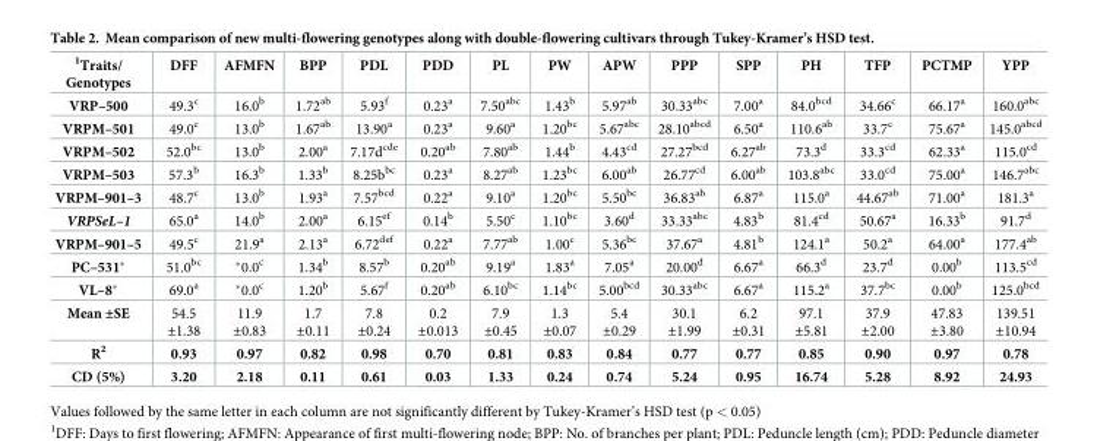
<table><thead><tr><td><sup>1</sup>Traits/ Genotypes</td><td>DFF</td><td>AFMFN</td><td>BPP</td><td>PDL</td><td>PDD</td><td>PL</td><td>PW</td><td>APW</td><td>PPP</td><td>SPP</td><td>PH</td><td>TFP</td><td>PCTMP</td><td>YPP</td></tr></thead><tbody><tr><td>VRP–500</td><td>49.3<sup>c</sup></td><td>16.0<sup>b</sup></td><td>1.72<sup>ab</sup></td><td>5.93<sup>f</sup></td><td>0.23<sup>a</sup></td><td>7.50<sup>abc</sup></td><td>1.43<sup>b</sup></td><td>5.97<sup>ab</sup></td><td>30.33<sup>abc</sup></td><td>7.00<sup>a</sup></td><td>84.0<sup>bcd</sup></td><td>34.66<sup>c</sup></td><td>66.17<sup>a</sup></td><td>160.0<sup>abc</sup></td></tr><tr><td>VRPM–501</td><td>49.0<sup>c</sup></td><td>13.0<sup>b</sup></td><td>1.67<sup>ab</sup></td><td>13.90<sup>a</sup></td><td>0.23<sup>a</sup></td><td>9.60<sup>a</sup></td><td>1.20<sup>bc</sup></td><td>5.67<sup>abc</sup></td><td>28.10<sup>abcd</sup></td><td>6.50<sup>a</sup></td><td>110.6<sup>ab</sup></td><td>33.7<sup>c</sup></td><td>75.67<sup>a</sup></td><td>145.0<sup>abcd</sup></td></tr><tr><td>VRPM–502</td><td>52.0<sup>bc</sup></td><td>13.0<sup>b</sup></td><td>2.00<sup>a</sup></td><td>7.17d<sup>cde</sup></td><td>0.20<sup>ab</sup></td><td>7.80<sup>ab</sup></td><td>1.44<sup>b</sup></td><td>4.43<sup>cd</sup></td><td>27.27<sup>bcd</sup></td><td>6.27<sup>ab</sup></td><td>73.3<sup>d</sup></td><td>33.3<sup>cd</sup></td><td>62.33<sup>a</sup></td><td>115.0<sup>cd</sup></td></tr><tr><td>VRPM–503</td><td>57.3<sup>b</sup></td><td>16.3<sup>b</sup></td><td>1.33<sup>b</sup></td><td>8.25b<sup>bc</sup></td><td>0.23<sup>a</sup></td><td>8.27<sup>ab</sup></td><td>1.23<sup>bc</sup></td><td>6.00<sup>ab</sup></td><td>26.77<sup>cd</sup></td><td>6.00<sup>ab</sup></td><td>103.8<sup>abc</sup></td><td>33.0<sup>cd</sup></td><td>75.00<sup>a</sup></td><td>146.7<sup>abc</sup></td></tr><tr><td>VRPM–901–3</td><td>48.7<sup>c</sup></td><td>13.0<sup>b</sup></td><td>1.93<sup>a</sup></td><td>7.57<sup>bcd</sup></td><td>0.22<sup>a</sup></td><td>9.10<sup>a</sup></td><td>1.20<sup>bc</sup></td><td>5.50<sup>bc</sup></td><td>36.83<sup>ab</sup></td><td>6.87<sup>a</sup></td><td>115.0<sup>a</sup></td><td>44.67<sup>ab</sup></td><td>71.00<sup>a</sup></td><td>181.3<sup>a</sup></td></tr><tr><td>VRPSeL–1</td><td>65.0<sup>a</sup></td><td>14.0<sup>b</sup></td><td>2.00<sup>a</sup></td><td>6.15<sup>ef</sup></td><td>0.14<sup>b</sup></td><td>5.50<sup>c</sup></td><td>1.10<sup>bc</sup></td><td>3.60<sup>d</sup></td><td>33.33<sup>abc</sup></td><td>4.83<sup>b</sup></td><td>81.4<sup>cd</sup></td><td>50.67<sup>a</sup></td><td>16.33<sup>b</sup></td><td>91.7<sup>d</sup></td></tr><tr><td>VRPM–901–5</td><td>49.5<sup>c</sup></td><td>21.9<sup>a</sup></td><td>2.13<sup>a</sup></td><td>6.72<sup>def</sup></td><td>0.22<sup>a</sup></td><td>7.77<sup>ab</sup></td><td>1.00<sup>c</sup></td><td>5.36<sup>bc</sup></td><td>37.67<sup>a</sup></td><td>4.81<sup>b</sup></td><td>124.1<sup>a</sup></td><td>50.2<sup>a</sup></td><td>64.00<sup>a</sup></td><td>177.4<sup>ab</sup></td></tr><tr><td>PC–531*</td><td>51.0<sup>bc</sup></td><td>*0.0<sup>c</sup></td><td>1.34<sup>b</sup></td><td>8.57<sup>b</sup></td><td>0.20<sup>ab</sup></td><td>9.19<sup>a</sup></td><td>1.83<sup>a</sup></td><td>7.05<sup>a</sup></td><td>20.00<sup>d</sup></td><td>6.67<sup>a</sup></td><td>66.3<sup>d</sup></td><td>23.7<sup>d</sup></td><td>0.00<sup>b</sup></td><td>113.5<sup>cd</sup></td></tr><tr><td>VL–8*</td><td>69.0<sup>a</sup></td><td>*0.0<sup>c</sup></td><td>1.20<sup>b</sup></td><td>5.67<sup>f</sup></td><td>0.20<sup>ab</sup></td><td>6.10<sup>bc</sup></td><td>1.14<sup>bc</sup></td><td>5.00<sup>bcd</sup></td><td>30.33<sup>abc</sup></td><td>6.67<sup>a</sup></td><td>115.2<sup>a</sup></td><td>37.7<sup>bc</sup></td><td>0.00<sup>b</sup></td><td>125.0<sup>bcd</sup></td></tr><tr><td>Mean ±SE</td><td>54.5 ±1.38</td><td>11.9 ±0.83</td><td>1.7 ±0.11</td><td>7.8 ±0.24</td><td>0.2 ±0.013</td><td>7.9 ±0.45</td><td>1.3 ±0.07</td><td>5.4 ±0.29</td><td>30.1 ±1.99</td><td>6.2 ±0.31</td><td>97.1 ±5.81</td><td>37.9 ±2.00</td><td>47.83 ±3.80</td><td>139.51 ±10.94</td></tr><tr><td>R<sup>2</sup></td><td>0.93</td><td>0.97</td><td>0.82</td><td>0.98</td><td>0.70</td><td>0.81</td><td>0.83</td><td>0.84</td><td>0.77</td><td>0.77</td><td>0.85</td><td>0.90</td><td>0.97</td><td>0.78</td></tr><tr><td>CD (5%)</td><td>3.20</td><td>2.18</td><td>0.11</td><td>0.61</td><td>0.03</td><td>1.33</td><td>0.24</td><td>0.74</td><td>5.24</td><td>0.95</td><td>16.74</td><td>5.28</td><td>8.92</td><td>24.93</td></tr></tbody></table>